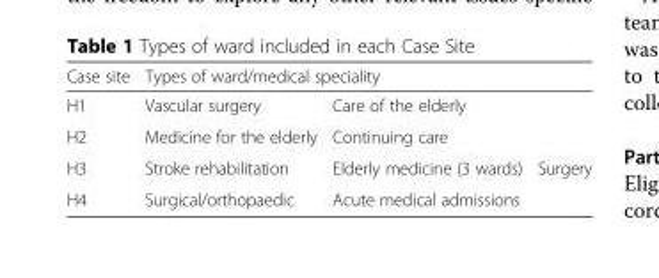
<table><thead><tr><td rowspan="2">Case site H1</td><td colspan="3">Types of ward/medical speciality</td></tr><tr><td>Vascular surgery</td><td>Care of the elderly</td><td></td></tr></thead><tbody><tr><td>H2</td><td>Medicine for the elderly</td><td>Continuing care</td><td></td></tr><tr><td>H3</td><td>Stroke rehabilitation</td><td>Elderly medicine (3 wards)</td><td>Surgery</td></tr><tr><td>H4</td><td>Surgical/orthopaedic</td><td>Acute medical admissions</td><td></td></tr></tbody></table>